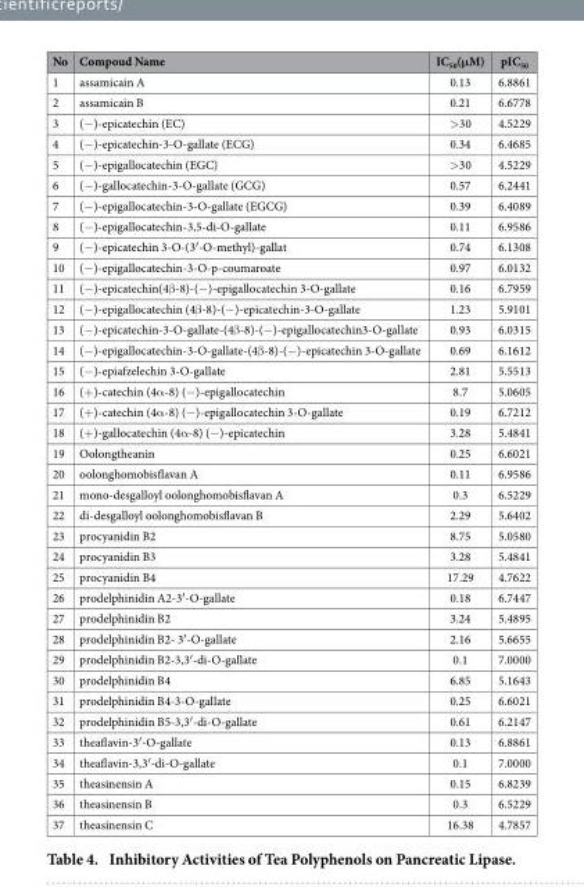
<table><thead><tr><td>No</td><td>Compoud Name</td><td>IC<sub>50</sub>(μM)</td><td>pIC<sub>50</sub></td></tr></thead><tbody><tr><td>1</td><td>assamicain A</td><td>0.13</td><td>6.8861</td></tr><tr><td>2</td><td>assamicain B</td><td>0.21</td><td>6.6778</td></tr><tr><td>3</td><td>(− )-epicatechin (EC)</td><td>&gt; 30</td><td>4.5229</td></tr><tr><td>4</td><td>(− )-epicatechin-3-O-gallate (ECG)</td><td>0.34</td><td>6.4685</td></tr><tr><td>5</td><td>(− )-epigallocatechin (EGC)</td><td>&gt; 30</td><td>4.5229</td></tr><tr><td>6</td><td>(− )-gallocatechin-3-O-gallate (GCG)</td><td>0.57</td><td>6.2441</td></tr><tr><td>7</td><td>(− )-epigallocatechin-3-O-gallate (EGCG)</td><td>0.39</td><td>6.4089</td></tr><tr><td>8</td><td>(− )-epigallocatechin-3,5-di-O-gallate</td><td>0.11</td><td>6.9586</td></tr><tr><td>9</td><td>(− )-epicatechin 3-O-(3′ -O-methyl)-gallat</td><td>0.74</td><td>6.1308</td></tr><tr><td>10</td><td>(− )-epigallocatechin-3-O-p-coumaroate</td><td>0.97</td><td>6.0132</td></tr><tr><td>11</td><td>(− )-epicatechin(4β -8)-(− )-epigallocatechin 3-O-gallate</td><td>0.16</td><td>6.7959</td></tr><tr><td>12</td><td>(− )-epigallocatechin (4β -8)-(− )-epicatechin-3-O-gallate</td><td>1.23</td><td>5.9101</td></tr><tr><td>13</td><td>(− )-epicatechin-3-O-gallate-(4β -8)-(− )-epigallocatechin3-O-gallate</td><td>0.93</td><td>6.0315</td></tr><tr><td>14</td><td>(− )-epigallocatechin-3-O-gallate-(4β -8)-(− )-epicatechin 3-O-gallate</td><td>0.69</td><td>6.1612</td></tr><tr><td>15</td><td>(− )-epiafzelechin 3-O-gallate</td><td>2.81</td><td>5.5513</td></tr><tr><td>16</td><td>(+ )-catechin (4α -8) (− )-epigallocatechin</td><td>8.7</td><td>5.0605</td></tr><tr><td>17</td><td>(+ )-catechin (4α -8) (− )-epigallocatechin 3-O-gallate</td><td>0.19</td><td>6.7212</td></tr><tr><td>18</td><td>(+ )-gallocatechin (4α -8) (− )-epicatechin</td><td>3.28</td><td>5.4841</td></tr><tr><td>19</td><td>Oolongtheanin</td><td>0.25</td><td>6.6021</td></tr><tr><td>20</td><td>oolonghomobisflavan A</td><td>0.11</td><td>6.9586</td></tr><tr><td>21</td><td>mono-desgalloyl oolonghomobisflavan A</td><td>0.3</td><td>6.5229</td></tr><tr><td>22</td><td>di-desgalloyl oolonghomobisflavan B</td><td>2.29</td><td>5.6402</td></tr><tr><td>23</td><td>procyanidin B2</td><td>8.75</td><td>5.0580</td></tr><tr><td>24</td><td>procyanidin B3</td><td>3.28</td><td>5.4841</td></tr><tr><td>25</td><td>procyanidin B4</td><td>17.29</td><td>4.7622</td></tr><tr><td>26</td><td>prodelphinidin A2-3′ -O-gallate</td><td>0.18</td><td>6.7447</td></tr><tr><td>27</td><td>prodelphinidin B2</td><td>3.24</td><td>5.4895</td></tr><tr><td>28</td><td>prodelphinidin B2- 3′ -O-gallate</td><td>2.16</td><td>5.6655</td></tr><tr><td>29</td><td>prodelphinidin B2-3,3′ -di-O-gallate</td><td>0.1</td><td>7.0000</td></tr><tr><td>30</td><td>prodelphinidin B4</td><td>6.85</td><td>5.1643</td></tr><tr><td>31</td><td>prodelphinidin B4-3-O-gallate</td><td>0.25</td><td>6.6021</td></tr><tr><td>32</td><td>prodelphinidin B5-3,3′ -di-O-gallate</td><td>0.61</td><td>6.2147</td></tr><tr><td>33</td><td>theaflavin-3′ -O-gallate</td><td>0.13</td><td>6.8861</td></tr><tr><td>34</td><td>theaflavin-3,3′ -di-O-gallate</td><td>0.1</td><td>7.0000</td></tr><tr><td>35</td><td>theasinensin A</td><td>0.15</td><td>6.8239</td></tr><tr><td>36</td><td>theasinensin B</td><td>0.3</td><td>6.5229</td></tr><tr><td>37</td><td>theasinensin C</td><td>16.38</td><td>4.7857</td></tr></tbody></table>